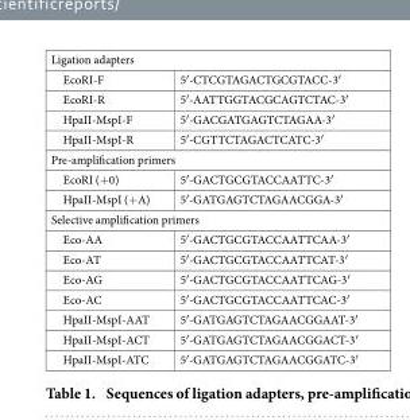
<table><tbody><tr><td colspan="2">Ligation adapters</td></tr><tr><td>EcoRI-F</td><td>5′ -CTCGTAGACTGCGTACC-3′</td></tr><tr><td>EcoRI-R</td><td>5′ -AATTGGTACGCAGTCTAC-3′</td></tr><tr><td>HpaII-MspI-F</td><td>5′ -GACGATGAGTCTAGAA-3′</td></tr><tr><td>HpaII-MspI-R</td><td>5′ -CGTTCTAGACTCATC-3′</td></tr><tr><td colspan="2">Pre-amplification primers</td></tr><tr><td>EcoRI (+ 0)</td><td>5′ -GACTGCGTACCAATTC-3′</td></tr><tr><td>HpaII-MspI (+ A)</td><td>5′ -GATGAGTCTAGAACGGA-3′</td></tr><tr><td colspan="2">Selective amplification primers</td></tr><tr><td>Eco-AA</td><td>5′ -GACTGCGTACCAATTCAA-3′</td></tr><tr><td>Eco-AT</td><td>5′ -GACTGCGTACCAATTCAT-3′</td></tr><tr><td>Eco-AG</td><td>5′ -GACTGCGTACCAATTCAG-3′</td></tr><tr><td>Eco-AC</td><td>5′ -GACTGCGTACCAATTCAC-3′</td></tr><tr><td>HpaII-MspI-AAT</td><td>5′ -GATGAGTCTAGAACGGAAT-3′</td></tr><tr><td>HpaII-MspI-ACT</td><td>5′ -GATGAGTCTAGAACGGACT-3′</td></tr><tr><td>HpaII-MspI-ATC</td><td>5′ -GATGAGTCTAGAACGGATC-3′</td></tr></tbody></table>